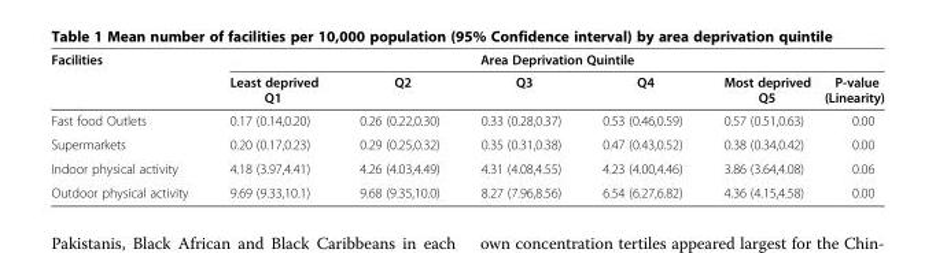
<table><thead><tr><td rowspan="2">Facilities</td><td colspan="6">Area Deprivation Quintile</td></tr><tr><td>Least deprived Q1</td><td>Q2</td><td>Q3</td><td>Q4</td><td>Most deprived Q5</td><td>P-value (Linearity)</td></tr></thead><tbody><tr><td>Fast food Outlets</td><td>0.17 (0.14,0.20)</td><td>0.26 (0.22,0.30)</td><td>0.33 (0.28,0.37)</td><td>0.53 (0.46,0.59)</td><td>0.57 (0.51,0.63)</td><td>0.00</td></tr><tr><td>Supermarkets</td><td>0.20 (0.17,0.23)</td><td>0.29 (0.25,0.32)</td><td>0.35 (0.31,0.38)</td><td>0.47 (0.43,0.52)</td><td>0.38 (0.34,0.42)</td><td>0.00</td></tr><tr><td>Indoor physical activity</td><td>4.18 (3.97,4.41)</td><td>4.26 (4.03,4.49)</td><td>4.31 (4.08,4.55)</td><td>4.23 (4.00,4.46)</td><td>3.86 (3.64,4.08)</td><td>0.06</td></tr><tr><td>Outdoor physical activity</td><td>9.69 (9.33,10.1)</td><td>9.68 (9.35,10.0)</td><td>8.27 (7.96,8.56)</td><td>6.54 (6.27,6.82)</td><td>4.36 (4.15,4.58)</td><td>0.00</td></tr></tbody></table>